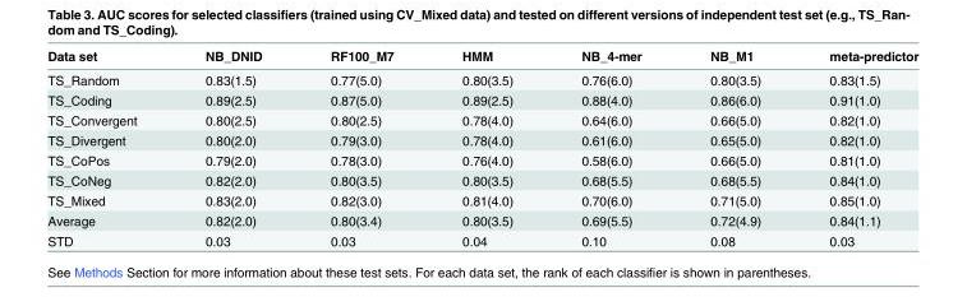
<table><thead><tr><td>Data set</td><td>NB_DNID</td><td>RF100_M7</td><td>HMM</td><td>NB_4-mer</td><td>NB_M1</td><td>meta-predictor</td></tr></thead><tbody><tr><td>TS_Random</td><td>0.83(1.5)</td><td>0.77(5.0)</td><td>0.80(3.5)</td><td>0.76(6.0)</td><td>0.80(3.5)</td><td>0.83(1.5)</td></tr><tr><td>TS_Coding</td><td>0.89(2.5)</td><td>0.87(5.0)</td><td>0.89(2.5)</td><td>0.88(4.0)</td><td>0.86(6.0)</td><td>0.91(1.0)</td></tr><tr><td>TS_Convergent</td><td>0.80(2.5)</td><td>0.80(2.5)</td><td>0.78(4.0)</td><td>0.64(6.0)</td><td>0.66(5.0)</td><td>0.82(1.0)</td></tr><tr><td>TS_Divergent</td><td>0.80(2.0)</td><td>0.79(3.0)</td><td>0.78(4.0)</td><td>0.61(6.0)</td><td>0.65(5.0)</td><td>0.82(1.0)</td></tr><tr><td>TS_CoPos</td><td>0.79(2.0)</td><td>0.78(3.0)</td><td>0.76(4.0)</td><td>0.58(6.0)</td><td>0.66(5.0)</td><td>0.81(1.0)</td></tr><tr><td>TS_CoNeg</td><td>0.82(2.0)</td><td>0.80(3.5)</td><td>0.80(3.5)</td><td>0.68(5.5)</td><td>0.68(5.5)</td><td>0.84(1.0)</td></tr><tr><td>TS_Mixed</td><td>0.83(2.0)</td><td>0.82(3.0)</td><td>0.81(4.0)</td><td>0.70(6.0)</td><td>0.71(5.0)</td><td>0.85(1.0)</td></tr><tr><td>Average</td><td>0.82(2.0)</td><td>0.80(3.4)</td><td>0.80(3.5)</td><td>0.69(5.5)</td><td>0.72(4.9)</td><td>0.84(1.1)</td></tr><tr><td>STD</td><td>0.03</td><td>0.03</td><td>0.04</td><td>0.10</td><td>0.08</td><td>0.03</td></tr></tbody></table>